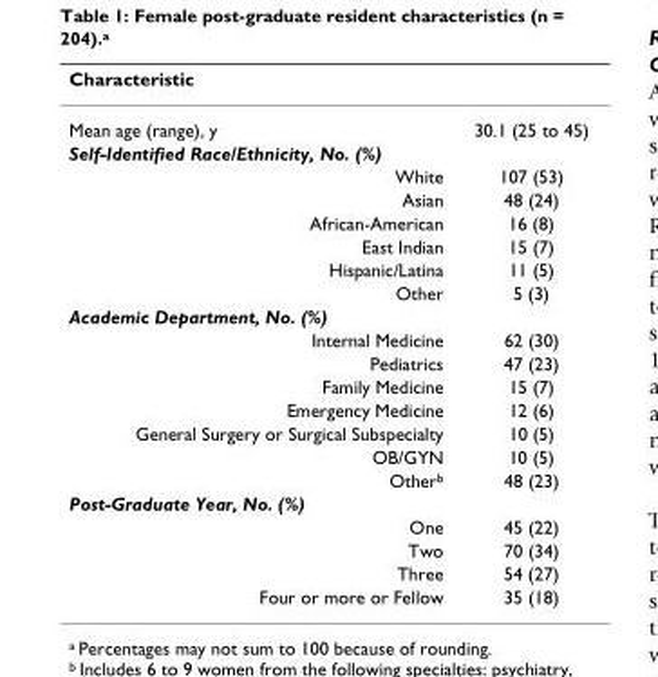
<table><thead><tr><td>Characteristic</td><td></td></tr></thead><tbody><tr><td>Mean age (range), y</td><td>30.1 (25 to 45)</td></tr><tr><td colspan="2">Self-Identified Race/Ethnicity, No. (%)</td></tr><tr><td>White</td><td>107 (53)</td></tr><tr><td>Asian</td><td>48 (24)</td></tr><tr><td>African-American</td><td>16 (8)</td></tr><tr><td>East Indian</td><td>15 (7)</td></tr><tr><td>Hispanic/Latina</td><td>11 (5)</td></tr><tr><td>Other</td><td>5 (3)</td></tr><tr><td colspan="2">Academic Department, No. (%)</td></tr><tr><td>Internal Medicine</td><td>62 (30)</td></tr><tr><td>Pediatrics</td><td>47 (23)</td></tr><tr><td>Family Medicine</td><td>15 (7)</td></tr><tr><td>Emergency Medicine</td><td>12 (6)</td></tr><tr><td>General Surgery or Surgical Subspecialty</td><td>10 (5)</td></tr><tr><td>OB/GYN</td><td>10 (5)</td></tr><tr><td>Other<sup>b</sup></td><td>48 (23)</td></tr><tr><td colspan="2">Post-Graduate Year, No. (%)</td></tr><tr><td>One</td><td>45 (22)</td></tr><tr><td>Two</td><td>70 (34)</td></tr><tr><td>Three</td><td>54 (27)</td></tr><tr><td>Four or more or Fellow</td><td>35 (18)</td></tr></tbody></table>